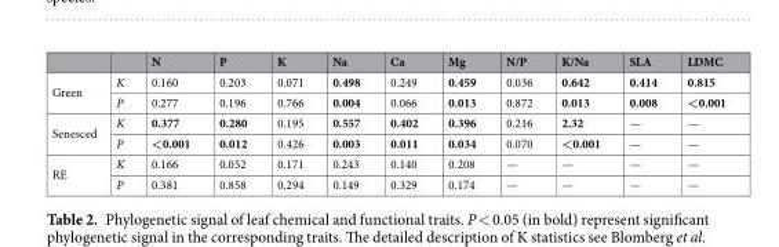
<table><thead><tr><td></td><td></td><td>N</td><td>P</td><td>K</td><td>Na</td><td>Ca</td><td>Mg</td><td>N/P</td><td>K/Na</td><td>SLA</td><td>LDMC</td></tr></thead><tbody><tr><td rowspan="2">Green</td><td>K</td><td>0.160</td><td>0.203</td><td>0.071</td><td>0.498</td><td>0.249</td><td>0.459</td><td>0.036</td><td>0.642</td><td>0.414</td><td>0.815</td></tr><tr><td>P</td><td>0.277</td><td>0.196</td><td>0.766</td><td>0.004</td><td>0.066</td><td>0.013</td><td>0.872</td><td>0.013</td><td>0.008</td><td>&lt;0.001</td></tr><tr><td rowspan="2">Senesced</td><td>K</td><td>0.377</td><td>0.280</td><td>0.195</td><td>0.557</td><td>0.402</td><td>0.396</td><td>0.216</td><td>2.32</td><td>—</td><td>—</td></tr><tr><td>P</td><td>&lt;0.001</td><td>0.012</td><td>0.426</td><td>0.003</td><td>0.011</td><td>0.034</td><td>0.070</td><td>&lt;0.001</td><td>—</td><td>—</td></tr><tr><td rowspan="2">RE</td><td>K</td><td>0.166</td><td>0.052</td><td>0.171</td><td>0.243</td><td>0.140</td><td>0.208</td><td>—</td><td>—</td><td>—</td><td>—</td></tr><tr><td>P</td><td>0.381</td><td>0.858</td><td>0.294</td><td>0.149</td><td>0.329</td><td>0.174</td><td>—</td><td>—</td><td>—</td><td>—</td></tr></tbody></table>